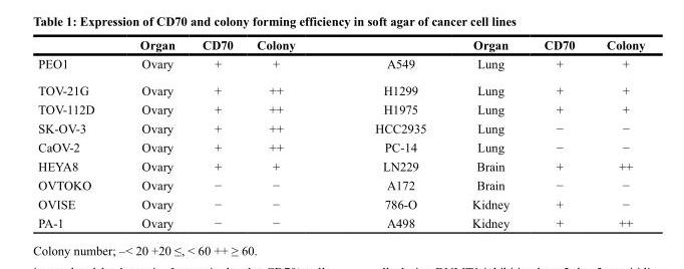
<table><thead><tr><td></td><td>Organ</td><td>CD70</td><td>Colony</td><td></td><td>Organ</td><td>CD70</td><td>Colony</td></tr></thead><tbody><tr><td>PEO1</td><td>Ovary</td><td>+</td><td>+</td><td>A549</td><td>Lung</td><td>+</td><td>+</td></tr><tr><td>TOV-21G</td><td>Ovary</td><td>+</td><td>++</td><td>H1299</td><td>Lung</td><td>+</td><td>+</td></tr><tr><td>TOV-112D</td><td>Ovary</td><td>+</td><td>++</td><td>H1975</td><td>Lung</td><td>+</td><td>+</td></tr><tr><td>SK-OV-3</td><td>Ovary</td><td>+</td><td>++</td><td>HCC2935</td><td>Lung</td><td>−</td><td>−</td></tr><tr><td>CaOV-2</td><td>Ovary</td><td>+</td><td>++</td><td>PC-14</td><td>Lung</td><td>−</td><td>−</td></tr><tr><td>HEYA8</td><td>Ovary</td><td>+</td><td>+</td><td>LN229</td><td>Brain</td><td>+</td><td>++</td></tr><tr><td>OVTOKO</td><td>Ovary</td><td>−</td><td>−</td><td>A172</td><td>Brain</td><td>−</td><td>−</td></tr><tr><td>OVISE</td><td>Ovary</td><td>−</td><td>−</td><td>786-O</td><td>Kidney</td><td>+</td><td>−</td></tr><tr><td>PA-1</td><td>Ovary</td><td>−</td><td>−</td><td>A498</td><td>Kidney</td><td>+</td><td>++</td></tr></tbody></table>